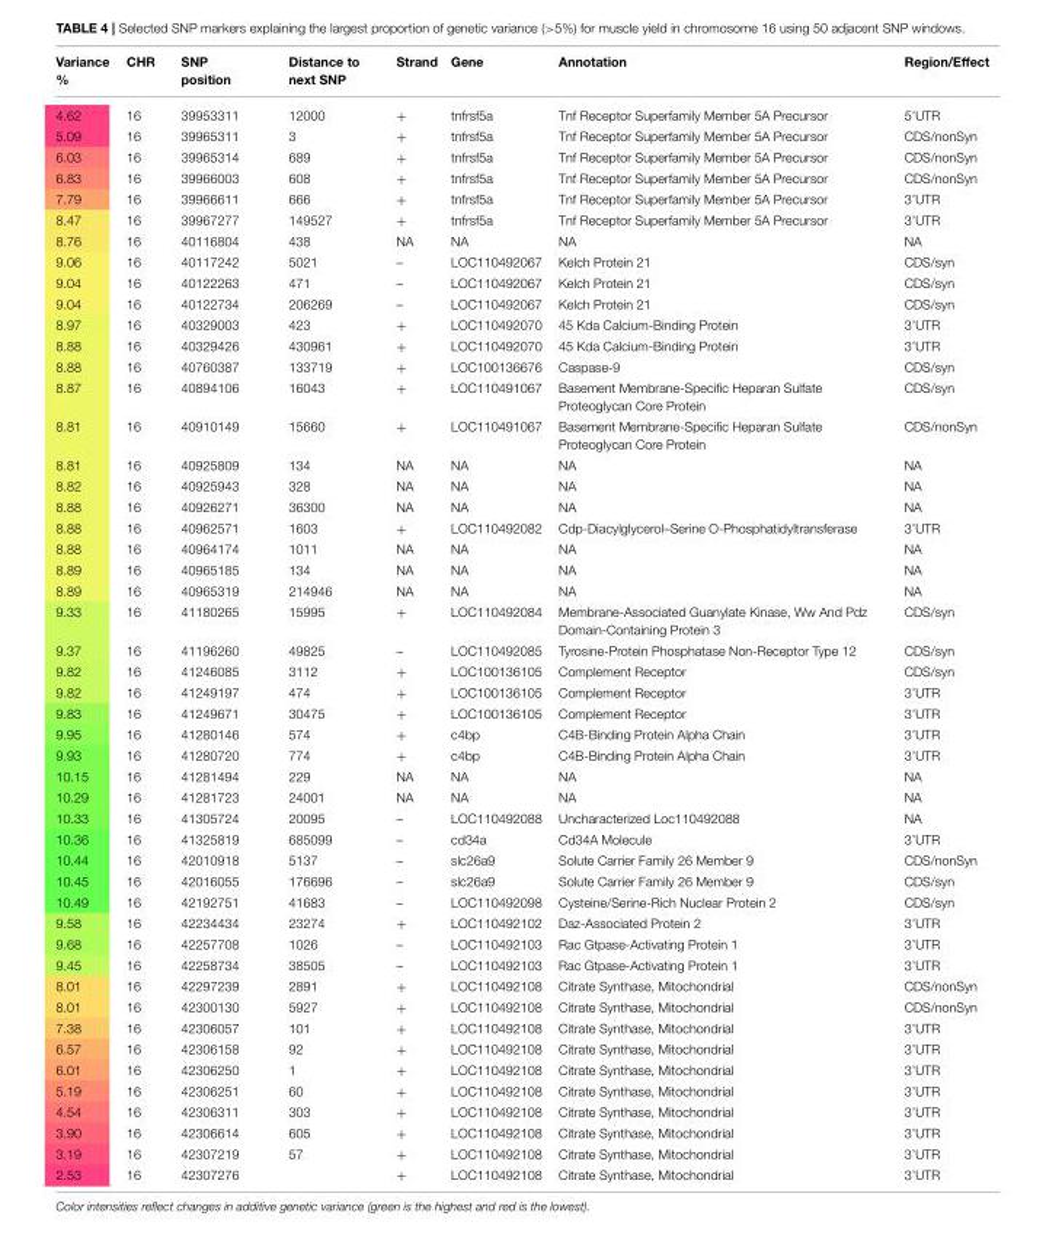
<table><thead><tr><td>Variance %</td><td>CHR</td><td>SNP position</td><td>Distance to next SNP</td><td>Strand</td><td>Gene</td><td>Annotation</td><td>Region/Effect</td></tr></thead><tbody><tr><td>4.62</td><td>16</td><td>39953311</td><td>12000</td><td>+</td><td>tnfrsf5a</td><td>Tnf Receptor Superfamily Member 5A Precursor</td><td>5’UTR</td></tr><tr><td>5.09</td><td>16</td><td>39965311</td><td>3</td><td>+</td><td>tnfrsf5a</td><td>Tnf Receptor Superfamily Member 5A Precursor</td><td>CDS/nonSyn</td></tr><tr><td>6.03</td><td>16</td><td>39965314</td><td>689</td><td>+</td><td>tnfrsf5a</td><td>Tnf Receptor Superfamily Member 5A Precursor</td><td>CDS/nonSyn</td></tr><tr><td>6.83</td><td>16</td><td>39966003</td><td>608</td><td>+</td><td>tnfrsf5a</td><td>Tnf Receptor Superfamily Member 5A Precursor</td><td>CDS/nonSyn</td></tr><tr><td>7.79</td><td>16</td><td>39966611</td><td>666</td><td>+</td><td>tnfrsf5a</td><td>Tnf Receptor Superfamily Member 5A Precursor</td><td>3’UTR</td></tr><tr><td>8.47</td><td>16</td><td>39967277</td><td>149527</td><td>+</td><td>tnfrsf5a</td><td>Tnf Receptor Superfamily Member 5A Precursor</td><td>3’UTR</td></tr><tr><td>8.76</td><td>16</td><td>40116804</td><td>438</td><td>NA</td><td>NA</td><td>NA</td><td>NA</td></tr><tr><td>9.06</td><td>16</td><td>40117242</td><td>5021</td><td>–</td><td>LOC110492067</td><td>Kelch Protein 21</td><td>CDS/syn</td></tr><tr><td>9.04</td><td>16</td><td>40122263</td><td>471</td><td>–</td><td>LOC110492067</td><td>Kelch Protein 21</td><td>CDS/syn</td></tr><tr><td>9.04</td><td>16</td><td>40122734</td><td>206269</td><td>–</td><td>LOC110492067</td><td>Kelch Protein 21</td><td>CDS/syn</td></tr><tr><td>8.97</td><td>16</td><td>40329003</td><td>423</td><td>+</td><td>LOC110492070</td><td>45 Kda Calcium-Binding Protein</td><td>3’UTR</td></tr><tr><td>8.88</td><td>16</td><td>40329426</td><td>430961</td><td>+</td><td>LOC110492070</td><td>45 Kda Calcium-Binding Protein</td><td>3’UTR</td></tr><tr><td>8.88</td><td>16</td><td>40760387</td><td>133719</td><td>+</td><td>LOC100136676</td><td>Caspase-9</td><td>CDS/syn</td></tr><tr><td>8.87</td><td>16</td><td>40894106</td><td>16043</td><td>+</td><td>LOC110491067</td><td>Basement Membrane-Specific Heparan Sulfate Proteoglycan Core Protein</td><td>CDS/syn</td></tr><tr><td>8.81</td><td>16</td><td>40910149</td><td>15660</td><td>+</td><td>LOC110491067</td><td>Basement Membrane-Specific Heparan Sulfate Proteoglycan Core Protein</td><td>CDS/nonSyn</td></tr><tr><td>8.81</td><td>16</td><td>40925809</td><td>134</td><td>NA</td><td>NA</td><td>NA</td><td>NA</td></tr><tr><td>8.82</td><td>16</td><td>40925943</td><td>328</td><td>NA</td><td>NA</td><td>NA</td><td>NA</td></tr><tr><td>8.88</td><td>16</td><td>40926271</td><td>36300</td><td>NA</td><td>NA</td><td>NA</td><td>NA</td></tr><tr><td>8.88</td><td>16</td><td>40962571</td><td>1603</td><td>+</td><td>LOC110492082</td><td>Cdp-Diacylglycerol–Serine O-Phosphatidyltransferase</td><td>3’UTR</td></tr><tr><td>8.88</td><td>16</td><td>40964174</td><td>1011</td><td>NA</td><td>NA</td><td>NA</td><td>NA</td></tr><tr><td>8.89</td><td>16</td><td>40965185</td><td>134</td><td>NA</td><td>NA</td><td>NA</td><td>NA</td></tr><tr><td>8.89</td><td>16</td><td>40965319</td><td>214946</td><td>NA</td><td>NA</td><td>NA</td><td>NA</td></tr><tr><td>9.33</td><td>16</td><td>41180265</td><td>15995</td><td>+</td><td>LOC110492084</td><td>Membrane-Associated Guanylate Kinase, Ww And Pdz Domain-Containing Protein 3</td><td>CDS/syn</td></tr><tr><td>9.37</td><td>16</td><td>41196260</td><td>49825</td><td>–</td><td>LOC110492085</td><td>Tyrosine-Protein Phosphatase Non-Receptor Type 12</td><td>CDS/syn</td></tr><tr><td>9.82</td><td>16</td><td>41246085</td><td>3112</td><td>+</td><td>LOC100136105</td><td>Complement Receptor</td><td>CDS/syn</td></tr><tr><td>9.82</td><td>16</td><td>41249197</td><td>474</td><td>+</td><td>LOC100136105</td><td>Complement Receptor</td><td>3’UTR</td></tr><tr><td>9.83</td><td>16</td><td>41249671</td><td>30475</td><td>+</td><td>LOC100136105</td><td>Complement Receptor</td><td>3’UTR</td></tr><tr><td>9.95</td><td>16</td><td>41280146</td><td>574</td><td>+</td><td>c4bp</td><td>C4B-Binding Protein Alpha Chain</td><td>3’UTR</td></tr><tr><td>9.93</td><td>16</td><td>41280720</td><td>774</td><td>+</td><td>c4bp</td><td>C4B-Binding Protein Alpha Chain</td><td>3’UTR</td></tr><tr><td>10.15</td><td>16</td><td>41281494</td><td>229</td><td>NA</td><td>NA</td><td>NA</td><td>NA</td></tr><tr><td>10.29</td><td>16</td><td>41281723</td><td>24001</td><td>NA</td><td>NA</td><td>NA</td><td>NA</td></tr><tr><td>10.33</td><td>16</td><td>41305724</td><td>20095</td><td>–</td><td>LOC110492088</td><td>Uncharacterized Loc110492088</td><td>NA</td></tr><tr><td>10.36</td><td>16</td><td>41325819</td><td>685099</td><td>–</td><td>cd34a</td><td>Cd34A Molecule</td><td>3’UTR</td></tr><tr><td>10.44</td><td>16</td><td>42010918</td><td>5137</td><td>–</td><td>slc26a9</td><td>Solute Carrier Family 26 Member 9</td><td>CDS/nonSyn</td></tr><tr><td>10.45</td><td>16</td><td>42016055</td><td>176696</td><td>–</td><td>slc26a9</td><td>Solute Carrier Family 26 Member 9</td><td>CDS/syn</td></tr><tr><td>10.49</td><td>16</td><td>42192751</td><td>41683</td><td>–</td><td>LOC110492098</td><td>Cysteine/Serine-Rich Nuclear Protein 2</td><td>CDS/syn</td></tr><tr><td>9.58</td><td>16</td><td>42234434</td><td>23274</td><td>+</td><td>LOC110492102</td><td>Daz-Associated Protein 2</td><td>3’UTR</td></tr><tr><td>9.68</td><td>16</td><td>42257708</td><td>1026</td><td>–</td><td>LOC110492103</td><td>Rac Gtpase-Activating Protein 1</td><td>3’UTR</td></tr><tr><td>9.45</td><td>16</td><td>42258734</td><td>38505</td><td>–</td><td>LOC110492103</td><td>Rac Gtpase-Activating Protein 1</td><td>3’UTR</td></tr><tr><td>8.01</td><td>16</td><td>42297239</td><td>2891</td><td>+</td><td>LOC110492108</td><td>Citrate Synthase, Mitochondrial</td><td>CDS/nonSyn</td></tr><tr><td>8.01</td><td>16</td><td>42300130</td><td>5927</td><td>+</td><td>LOC110492108</td><td>Citrate Synthase, Mitochondrial</td><td>CDS/nonSyn</td></tr><tr><td>7.38</td><td>16</td><td>42306057</td><td>101</td><td>+</td><td>LOC110492108</td><td>Citrate Synthase, Mitochondrial</td><td>3’UTR</td></tr><tr><td>6.57</td><td>16</td><td>42306158</td><td>92</td><td>+</td><td>LOC110492108</td><td>Citrate Synthase, Mitochondrial</td><td>3’UTR</td></tr><tr><td>6.01</td><td>16</td><td>42306250</td><td>1</td><td>+</td><td>LOC110492108</td><td>Citrate Synthase, Mitochondrial</td><td>3’UTR</td></tr><tr><td>5.19</td><td>16</td><td>42306251</td><td>60</td><td>+</td><td>LOC110492108</td><td>Citrate Synthase, Mitochondrial</td><td>3’UTR</td></tr><tr><td>4.54</td><td>16</td><td>42306311</td><td>303</td><td>+</td><td>LOC110492108</td><td>Citrate Synthase, Mitochondrial</td><td>3’UTR</td></tr><tr><td>3.90</td><td>16</td><td>42306614</td><td>605</td><td>+</td><td>LOC110492108</td><td>Citrate Synthase, Mitochondrial</td><td>3’UTR</td></tr><tr><td>3.19</td><td>16</td><td>42307219</td><td>57</td><td>+</td><td>LOC110492108</td><td>Citrate Synthase, Mitochondrial</td><td>3’UTR</td></tr><tr><td>2.53</td><td>16</td><td>42307276</td><td></td><td>+</td><td>LOC110492108</td><td>Citrate Synthase, Mitochondrial</td><td>3’UTR</td></tr></tbody></table>